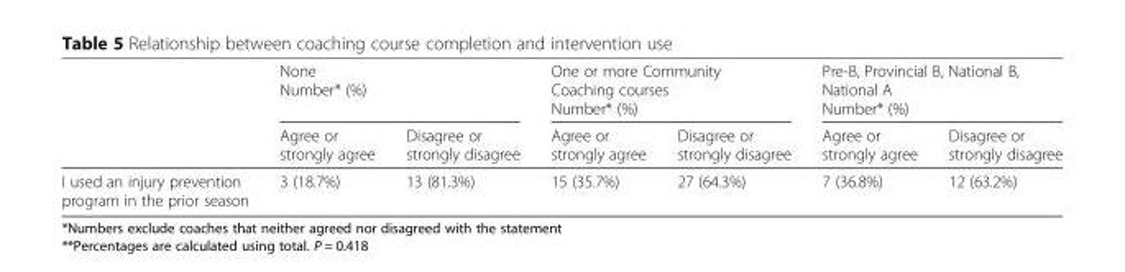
<table><thead><tr><td rowspan="2"></td><td colspan="2">None Number* (%)</td><td colspan="2">One or more Community Coaching courses Number* (%)</td><td colspan="2">Pre-B, Provincial B, National B, National A Number* (%)</td></tr><tr><td>Agree or strongly agree</td><td>Disagree or strongly disagree</td><td>Agree or strongly agree</td><td>Disagree or strongly disagree</td><td>Agree or strongly agree</td><td>Disagree or strongly disagree</td></tr></thead><tbody><tr><td>I used an injury prevention program in the prior season</td><td>3 (18.7%)</td><td>13 (81.3%)</td><td>15 (35.7%)</td><td>27 (64.3%)</td><td>7 (36.8%)</td><td>12 (63.2%)</td></tr></tbody></table>